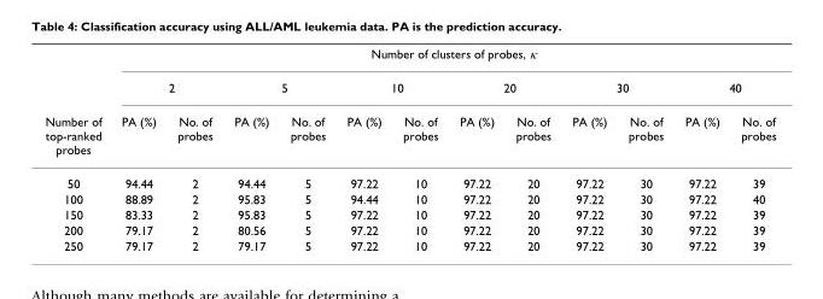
<table><thead><tr><td rowspan="3">Number of top-ranked probes</td><td colspan="12">Number of clusters of probes, κ</td></tr><tr><td colspan="2">2</td><td colspan="2">5</td><td colspan="2">10</td><td colspan="2">20</td><td colspan="2">30</td><td colspan="2">40</td></tr><tr><td>PA (%)</td><td>No. of probes</td><td>PA (%)</td><td>No. of probes</td><td>PA (%)</td><td>No. of probes</td><td>PA (%)</td><td>No. of probes</td><td>PA (%)</td><td>No. of probes</td><td>PA (%)</td><td>No. of probes</td></tr></thead><tbody><tr><td>50</td><td>94.44</td><td>2</td><td>94.44</td><td>5</td><td>97.22</td><td>10</td><td>97.22</td><td>20</td><td>97.22</td><td>30</td><td>97.22</td><td>39</td></tr><tr><td>100</td><td>88.89</td><td>2</td><td>95.83</td><td>5</td><td>94.44</td><td>10</td><td>97.22</td><td>20</td><td>97.22</td><td>30</td><td>97.22</td><td>40</td></tr><tr><td>150</td><td>83.33</td><td>2</td><td>95.83</td><td>5</td><td>97.22</td><td>10</td><td>97.22</td><td>20</td><td>97.22</td><td>30</td><td>97.22</td><td>39</td></tr><tr><td>200</td><td>79.17</td><td>2</td><td>80.56</td><td>5</td><td>97.22</td><td>10</td><td>97.22</td><td>20</td><td>97.22</td><td>30</td><td>97.22</td><td>39</td></tr><tr><td>250</td><td>79.17</td><td>2</td><td>79.17</td><td>5</td><td>97.22</td><td>10</td><td>97.22</td><td>20</td><td>97.22</td><td>30</td><td>97.22</td><td>39</td></tr></tbody></table>